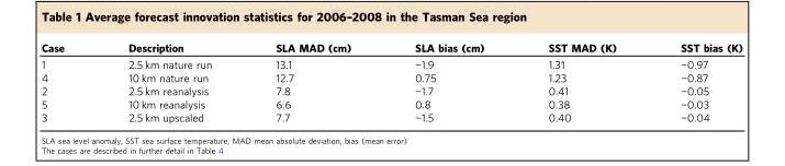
<table><thead><tr><td>Case</td><td>Description</td><td>SLA MAD (cm)</td><td>SLA bias (cm)</td><td>SST MAD (K)</td><td>SST bias (K)</td></tr></thead><tbody><tr><td>1</td><td>2.5 km nature run</td><td>13.1</td><td>−1.9</td><td>1.31</td><td>−0.97</td></tr><tr><td>4</td><td>10 km nature run</td><td>12.7</td><td>0.75</td><td>1.23</td><td>−0.87</td></tr><tr><td>2</td><td>2.5 km reanalysis</td><td>7.8</td><td>−1.7</td><td>0.41</td><td>−0.05</td></tr><tr><td>5</td><td>10 km reanalysis</td><td>6.6</td><td>0.8</td><td>0.38</td><td>−0.03</td></tr><tr><td>3</td><td>2.5 km upscaled</td><td>7.7</td><td>−1.5</td><td>0.40</td><td>−0.04</td></tr></tbody></table>